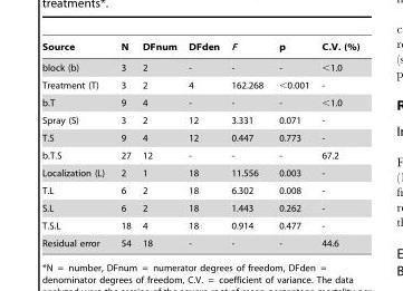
<table><thead><tr><td>Source</td><td>N</td><td>DFnum</td><td>DFden</td><td>F</td><td>p</td><td>C.V. (%)</td></tr></thead><tbody><tr><td>block (b)</td><td>3</td><td>2</td><td>-</td><td>-</td><td>-</td><td>&lt;1.0</td></tr><tr><td>Treatment (T)</td><td>3</td><td>2</td><td>4</td><td>162.268</td><td>&lt;0.001</td><td>-</td></tr><tr><td>b.T</td><td>9</td><td>4</td><td>-</td><td>-</td><td>-</td><td>&lt;1.0</td></tr><tr><td>Spray (S)</td><td>3</td><td>2</td><td>12</td><td>3.331</td><td>0.071</td><td>-</td></tr><tr><td>T.S</td><td>9</td><td>4</td><td>12</td><td>0.447</td><td>0.773</td><td>-</td></tr><tr><td>b.T.S</td><td>27</td><td>12</td><td>-</td><td>-</td><td>-</td><td>67.2</td></tr><tr><td>Localization (L)</td><td>2</td><td>1</td><td>18</td><td>11.556</td><td>0.003</td><td>-</td></tr><tr><td>T.L</td><td>6</td><td>2</td><td>18</td><td>6.302</td><td>0.008</td><td>-</td></tr><tr><td>S.L</td><td>6</td><td>2</td><td>18</td><td>1.443</td><td>0.262</td><td>-</td></tr><tr><td>T.S.L</td><td>18</td><td>4</td><td>18</td><td>0.914</td><td>0.477</td><td>-</td></tr><tr><td>Residual error</td><td>54</td><td>18</td><td>-</td><td>-</td><td>-</td><td>44.6</td></tr></tbody></table>